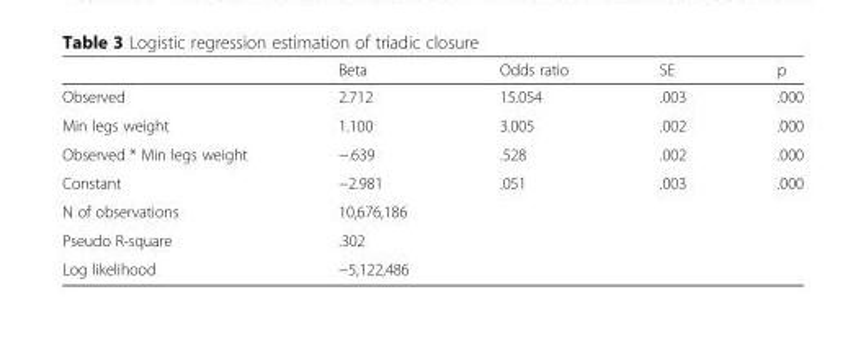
<table><thead><tr><td></td><td>Beta</td><td>Odds ratio</td><td>SE</td><td>p</td></tr></thead><tbody><tr><td>Observed</td><td>2.712</td><td>15.054</td><td>.003</td><td>.000</td></tr><tr><td>Min legs weight</td><td>1.100</td><td>3.005</td><td>.002</td><td>.000</td></tr><tr><td>Observed * Min legs weight</td><td>−.639</td><td>.528</td><td>.002</td><td>.000</td></tr><tr><td>Constant</td><td>−2.981</td><td>.051</td><td>.003</td><td>.000</td></tr><tr><td>N of observations</td><td>10,676,186</td><td></td><td></td><td></td></tr><tr><td>Pseudo R-square</td><td>.302</td><td></td><td></td><td></td></tr><tr><td>Log likelihood</td><td>−5,122,486</td><td></td><td></td><td></td></tr></tbody></table>